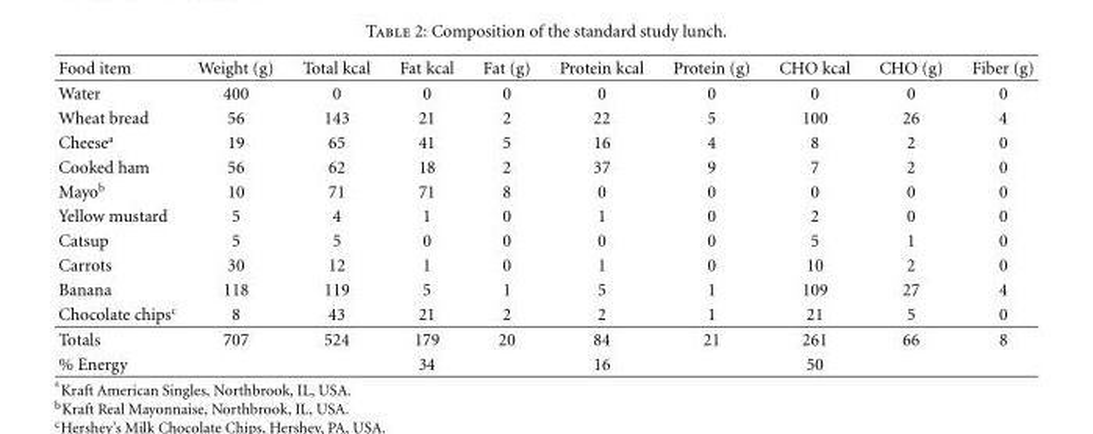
<table><thead><tr><td>Food item</td><td>Weight (g)</td><td>Total kcal</td><td>Fat kcal</td><td>Fat (g)</td><td>Protein kcal</td><td>Protein (g)</td><td>CHO kcal</td><td>CHO (g)</td><td>Fiber (g)</td></tr></thead><tbody><tr><td>Water</td><td>400</td><td>0</td><td>0</td><td>0</td><td>0</td><td>0</td><td>0</td><td>0</td><td>0</td></tr><tr><td>Wheat bread</td><td>56</td><td>143</td><td>21</td><td>2</td><td>22</td><td>5</td><td>100</td><td>26</td><td>4</td></tr><tr><td>Cheese<sup>a</sup></td><td>19</td><td>65</td><td>41</td><td>5</td><td>16</td><td>4</td><td>8</td><td>2</td><td>0</td></tr><tr><td>Cooked ham</td><td>56</td><td>62</td><td>18</td><td>2</td><td>37</td><td>9</td><td>7</td><td>2</td><td>0</td></tr><tr><td>Mayo<sup>b</sup></td><td>10</td><td>71</td><td>71</td><td>8</td><td>0</td><td>0</td><td>0</td><td>0</td><td>0</td></tr><tr><td>Yellow mustard</td><td>5</td><td>4</td><td>1</td><td>0</td><td>1</td><td>0</td><td>2</td><td>0</td><td>0</td></tr><tr><td>Catsup</td><td>5</td><td>5</td><td>0</td><td>0</td><td>0</td><td>0</td><td>5</td><td>1</td><td>0</td></tr><tr><td>Carrots</td><td>30</td><td>12</td><td>1</td><td>0</td><td>1</td><td>0</td><td>10</td><td>2</td><td>0</td></tr><tr><td>Banana</td><td>118</td><td>119</td><td>5</td><td>1</td><td>5</td><td>1</td><td>109</td><td>27</td><td>4</td></tr><tr><td>Chocolate chips<sup>c</sup></td><td>8</td><td>43</td><td>21</td><td>2</td><td>2</td><td>1</td><td>21</td><td>5</td><td>0</td></tr><tr><td>Totals</td><td>707</td><td>524</td><td>179</td><td>20</td><td>84</td><td>21</td><td>261</td><td>66</td><td>8</td></tr><tr><td>% Energy</td><td></td><td></td><td>34</td><td></td><td>16</td><td></td><td>50</td><td></td><td></td></tr></tbody></table>